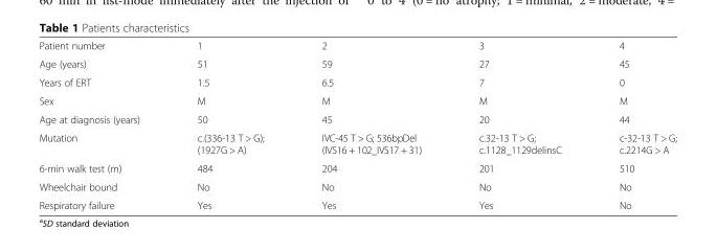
<table><tbody><tr><td>Patient number</td><td>1</td><td>2</td><td>3</td><td>4</td></tr><tr><td>Age (years)</td><td>51</td><td>59</td><td>27</td><td>45</td></tr><tr><td>Years of ERT</td><td>1.5</td><td>6.5</td><td>7</td><td>0</td></tr><tr><td>Sex</td><td>M</td><td>M</td><td>M</td><td>M</td></tr><tr><td>Age at diagnosis (years)</td><td>50</td><td>45</td><td>20</td><td>44</td></tr><tr><td>Mutation</td><td>c.(336-13 T &gt; G); (1927G &gt; A)</td><td>IVC-45 T &gt; G; 536bpDel (IVS16 + 102_IVS17 + 31)</td><td>c.32-13 T &gt; G; c.1128_1129delinsC</td><td>c-32-13 T &gt; G; c.2214G &gt; A</td></tr><tr><td>6-min walk test (m)</td><td>484</td><td>204</td><td>201</td><td>510</td></tr><tr><td>Wheelchair bound</td><td>No</td><td>No</td><td>No</td><td>No</td></tr><tr><td>Respiratory failure</td><td>Yes</td><td>Yes</td><td>Yes</td><td>No</td></tr></tbody></table>